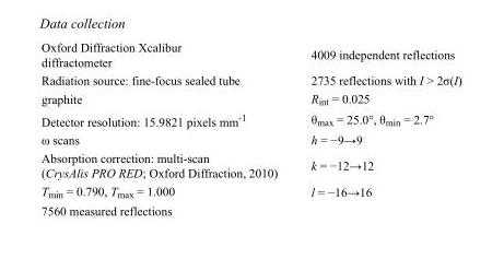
<table><tbody><tr><td>Oxford Diffraction Xcalibur diffractometer</td><td>4009 independent reflections</td></tr><tr><td>Radiation source: fine-focus sealed tube</td><td>2735 reflections with I &gt; 2σ(I)</td></tr><tr><td>graphite</td><td>R<sub>int</sub> = 0.025</td></tr><tr><td>Detector resolution: 15.9821 pixels mm<sup>-1</sup></td><td>θ<sub>max</sub> = 25.0°, θ<sub>min</sub> = 2.7°</td></tr><tr><td>ω scans</td><td>h = −9→9</td></tr><tr><td>Absorption correction: multi-scan (CrysAlis PRO RED; Oxford Diffraction, 2010)</td><td>k = −12→12</td></tr><tr><td>T<sub>min</sub> = 0.790, T<sub>max</sub> = 1.000</td><td>l = −16→16</td></tr><tr><td>7560 measured reflections</td><td></td></tr></tbody></table>